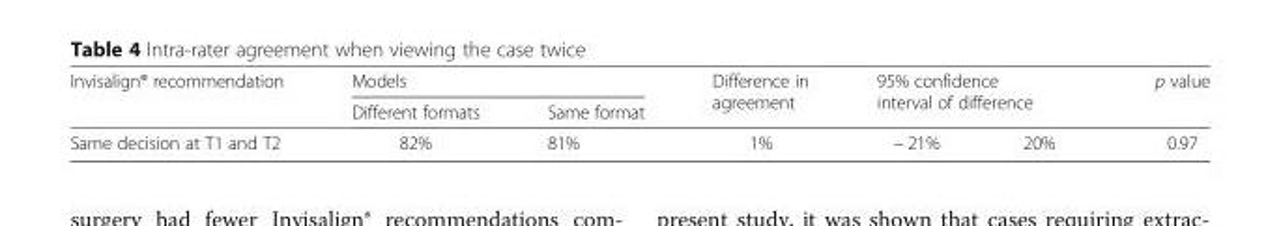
<table><thead><tr><td rowspan="3">Invisalign® recommendation Same decision at T1 and T2</td><td colspan="2">Models</td><td rowspan="3">Difference in agreement 1%</td><td rowspan="2" colspan="2">95% confidence interval of difference</td><td rowspan="3">p value 0.97</td></tr><tr><td rowspan="2">Different formats 82%</td><td rowspan="2">Same format 81%</td></tr><tr><td>− 21%</td><td>20%</td></tr></thead><tbody></tbody></table>